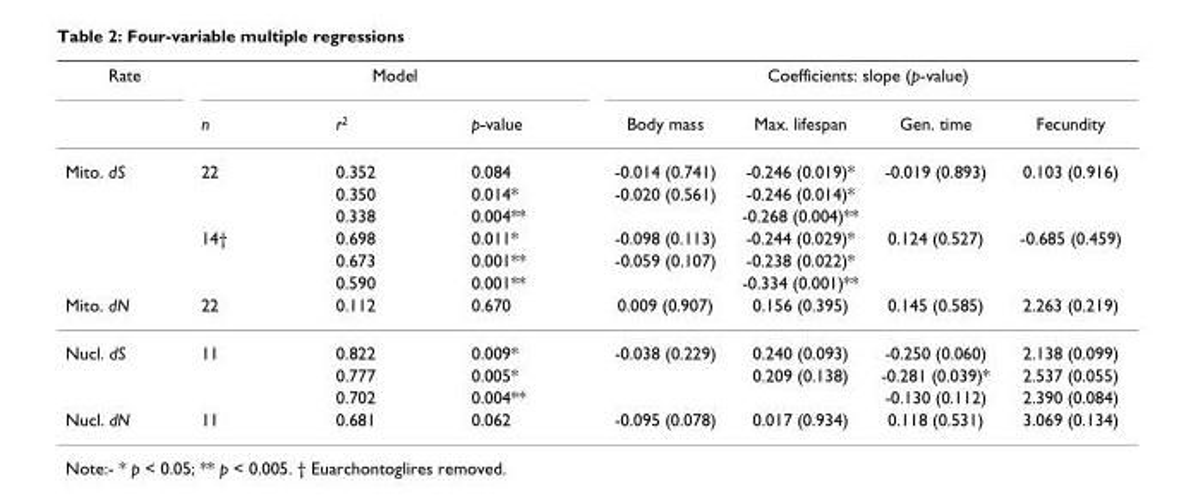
<table><thead><tr><td rowspan="2">Rate</td><td colspan="3">Model</td><td colspan="4">Coefficients: slope (p-value)</td></tr><tr><td>n</td><td>r<sup>2</sup></td><td>p-value</td><td>Body mass</td><td>Max. lifespan</td><td>Gen. time</td><td>Fecundity</td></tr></thead><tbody><tr><td rowspan="6">Mito. dS</td><td>22</td><td>0.352</td><td>0.084</td><td>-0.014 (0.741)</td><td>-0.246 (0.019)*</td><td>-0.019 (0.893)</td><td>0.103 (0.916)</td></tr><tr><td></td><td>0.350</td><td>0.014*</td><td>-0.020 (0.561)</td><td>-0.246 (0.014)*</td><td></td><td></td></tr><tr><td></td><td>0.338</td><td>0.004**</td><td></td><td>-0.268 (0.004)**</td><td></td><td></td></tr><tr><td>14†</td><td>0.698</td><td>0.011*</td><td>-0.098 (0.113)</td><td>-0.244 (0.029)*</td><td>0.124 (0.527)</td><td>-0.685 (0.459)</td></tr><tr><td></td><td>0.673</td><td>0.001**</td><td>-0.059 (0.107)</td><td>-0.238 (0.022)*</td><td></td><td></td></tr><tr><td></td><td>0.590</td><td>0.001**</td><td></td><td>-0.334 (0.001)**</td><td></td><td></td></tr><tr><td>Mito. dN</td><td>22</td><td>0.112</td><td>0.670</td><td>0.009 (0.907)</td><td>0.156 (0.395)</td><td>0.145 (0.585)</td><td>2.263 (0.219)</td></tr><tr><td rowspan="3">Nucl. dS</td><td>11</td><td>0.822</td><td>0.009*</td><td>-0.038 (0.229)</td><td>0.240 (0.093)</td><td>-0.250 (0.060)</td><td>2.138 (0.099)</td></tr><tr><td></td><td>0.777</td><td>0.005*</td><td></td><td>0.209 (0.138)</td><td>-0.281 (0.039)*</td><td>2.537 (0.055)</td></tr><tr><td></td><td>0.702</td><td>0.004**</td><td></td><td></td><td>-0.130 (0.112)</td><td>2.390 (0.084)</td></tr><tr><td>Nucl. dN</td><td>11</td><td>0.681</td><td>0.062</td><td>-0.095 (0.078)</td><td>0.017 (0.934)</td><td>0.118 (0.531)</td><td>3.069 (0.134)</td></tr></tbody></table>